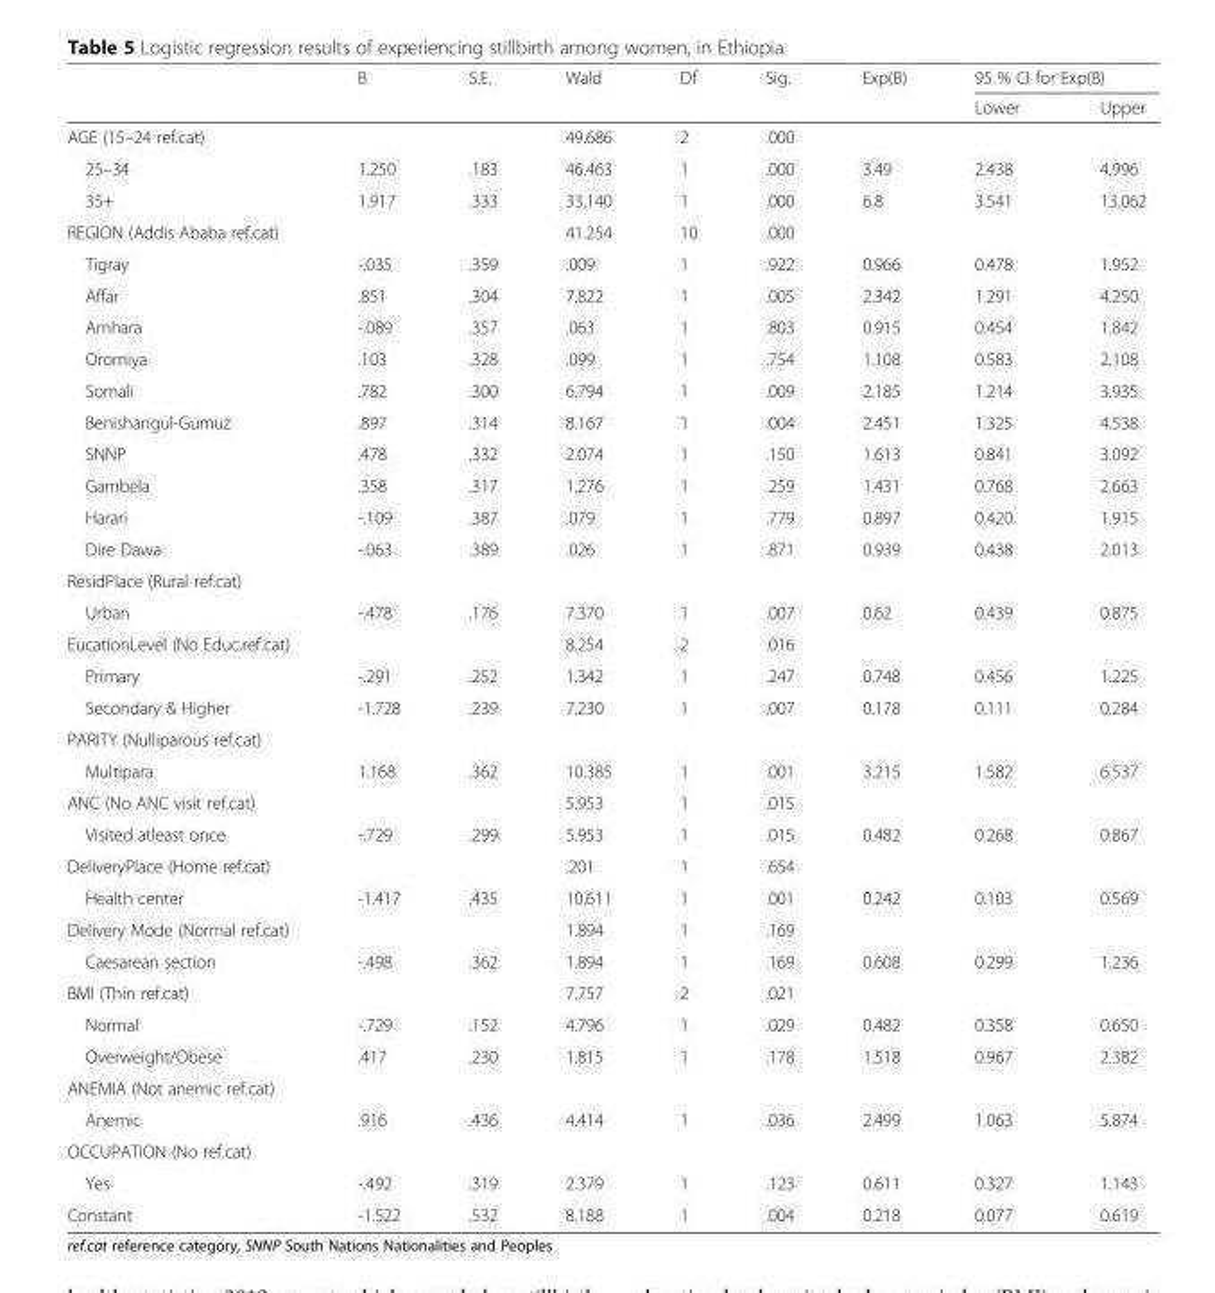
<table><thead><tr><td rowspan="2"></td><td rowspan="2">B</td><td rowspan="2">S.E.</td><td rowspan="2">Wald</td><td rowspan="2">Df</td><td rowspan="2">Sig.</td><td rowspan="2">Exp(B)</td><td colspan="2">95 % CI for Exp(B)</td></tr><tr><td>Lower</td><td>Upper</td></tr></thead><tbody><tr><td>AGE (15–24 ref.cat)</td><td></td><td></td><td>49.686</td><td>2</td><td>.000</td><td></td><td></td><td></td></tr><tr><td>25–34</td><td>1.250</td><td>.183</td><td>46.463</td><td>1</td><td>.000</td><td>3.49</td><td>2.438</td><td>4.996</td></tr><tr><td>35+</td><td>1.917</td><td>.333</td><td>33.140</td><td>1</td><td>.000</td><td>6.8</td><td>3.541</td><td>13.062</td></tr><tr><td>REGION (Addis Ababa ref.cat)</td><td></td><td></td><td>41.254</td><td>10</td><td>.000</td><td></td><td></td><td></td></tr><tr><td>Tigray</td><td>-.035</td><td>.359</td><td>.009</td><td>1</td><td>.922</td><td>0.966</td><td>0.478</td><td>1.952</td></tr><tr><td>Affar</td><td>.851</td><td>.304</td><td>7.822</td><td>1</td><td>.005</td><td>2.342</td><td>1.291</td><td>4.250</td></tr><tr><td>Amhara</td><td>-.089</td><td>.357</td><td>.063</td><td>1</td><td>.803</td><td>0.915</td><td>0.454</td><td>1.842</td></tr><tr><td>Oromiya</td><td>.103</td><td>.328</td><td>.099</td><td>1</td><td>.754</td><td>1.108</td><td>0.583</td><td>2.108</td></tr><tr><td>Somali</td><td>.782</td><td>.300</td><td>6.794</td><td>1</td><td>.009</td><td>2.185</td><td>1.214</td><td>3.935</td></tr><tr><td>Benishangul-Gumuz</td><td>.897</td><td>.314</td><td>8.167</td><td>1</td><td>.004</td><td>2.451</td><td>1.325</td><td>4.538</td></tr><tr><td>SNNP</td><td>.478</td><td>.332</td><td>2.074</td><td>1</td><td>.150</td><td>1.613</td><td>0.841</td><td>3.092</td></tr><tr><td>Gambela</td><td>.358</td><td>.317</td><td>1.276</td><td>1</td><td>.259</td><td>1.431</td><td>0.768</td><td>2.663</td></tr><tr><td>Harari</td><td>-.109</td><td>.387</td><td>.079</td><td>1</td><td>.779</td><td>0.897</td><td>0.420</td><td>1.915</td></tr><tr><td>Dire Dawa</td><td>-.063</td><td>.389</td><td>.026</td><td>1</td><td>.871</td><td>0.939</td><td>0.438</td><td>2.013</td></tr><tr><td colspan="9">ResidPlace (Rural ref.cat)</td></tr><tr><td>Urban</td><td>-.478</td><td>.176</td><td>7.370</td><td>1</td><td>.007</td><td>0.62</td><td>0.439</td><td>0.875</td></tr><tr><td>EucationLevel (No Educ.ref.cat)</td><td></td><td></td><td>8.254</td><td>2</td><td>.016</td><td></td><td></td><td></td></tr><tr><td>Primary</td><td>-.291</td><td>.252</td><td>1.342</td><td>1</td><td>.247</td><td>0.748</td><td>0.456</td><td>1.225</td></tr><tr><td>Secondary &amp; Higher</td><td>-1.728</td><td>.239</td><td>7.230</td><td>1</td><td>.007</td><td>0.178</td><td>0.111</td><td>0.284</td></tr><tr><td colspan="9">PARITY (Nulliparous ref.cat)</td></tr><tr><td>Multipara</td><td>1.168</td><td>.362</td><td>10.385</td><td>1</td><td>.001</td><td>3.215</td><td>1.582</td><td>6.537</td></tr><tr><td>ANC (No ANC visit ref.cat)</td><td></td><td></td><td>5.953</td><td>1</td><td>.015</td><td></td><td></td><td></td></tr><tr><td>Visited atleast once</td><td>-.729</td><td>.299</td><td>5.953</td><td>1</td><td>.015</td><td>0.482</td><td>0.268</td><td>0.867</td></tr><tr><td>DeliveryPlace (Home ref.cat)</td><td></td><td></td><td>.201</td><td>1</td><td>.654</td><td></td><td></td><td></td></tr><tr><td>Health center</td><td>-1.417</td><td>.435</td><td>10.611</td><td>1</td><td>.001</td><td>0.242</td><td>0.103</td><td>0.569</td></tr><tr><td>Delivery Mode (Normal ref.cat)</td><td></td><td></td><td>1.894</td><td>1</td><td>.169</td><td></td><td></td><td></td></tr><tr><td>Caesarean section</td><td>-.498</td><td>.362</td><td>1.894</td><td>1</td><td>.169</td><td>0.608</td><td>0.299</td><td>1.236</td></tr><tr><td>BMI (Thin ref.cat)</td><td></td><td></td><td>7.757</td><td>2</td><td>.021</td><td></td><td></td><td></td></tr><tr><td>Normal</td><td>-.729</td><td>.152</td><td>4.796</td><td>1</td><td>.029</td><td>0.482</td><td>0.358</td><td>0.650</td></tr><tr><td>Overweight/Obese</td><td>.417</td><td>.230</td><td>1.815</td><td>1</td><td>.178</td><td>1.518</td><td>0.967</td><td>2.382</td></tr><tr><td colspan="9">ANEMIA (Not anemic ref.cat)</td></tr><tr><td>Anemic</td><td>.916</td><td>.436</td><td>4.414</td><td>1</td><td>.036</td><td>2.499</td><td>1.063</td><td>5.874</td></tr><tr><td colspan="9">OCCUPATION (No ref.cat)</td></tr><tr><td>Yes</td><td>-.492</td><td>.319</td><td>2.379</td><td>1</td><td>.123</td><td>0.611</td><td>0.327</td><td>1.143</td></tr><tr><td>Constant</td><td>-1.522</td><td>.532</td><td>8.188</td><td>1</td><td>.004</td><td>0.218</td><td>0.077</td><td>0.619</td></tr></tbody></table>